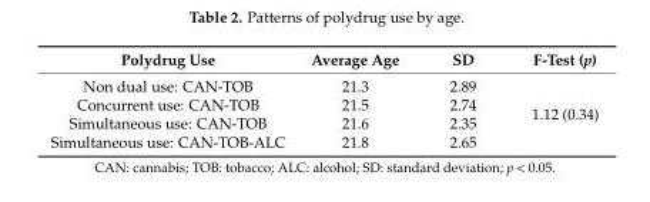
<table><thead><tr><td>Polydrug Use</td><td>Average Age</td><td>SD</td><td>F-Test (p)</td></tr></thead><tbody><tr><td>Non dual use: CAN-TOB</td><td>21.3</td><td>2.89</td><td rowspan="4">1.12 (0.34)</td></tr><tr><td>Concurrent use: CAN-TOB</td><td>21.5</td><td>2.74</td></tr><tr><td>Simultaneous use: CAN-TOB</td><td>21.6</td><td>2.35</td></tr><tr><td>Simultaneous use: CAN-TOB-ALC</td><td>21.8</td><td>2.65</td></tr></tbody></table>